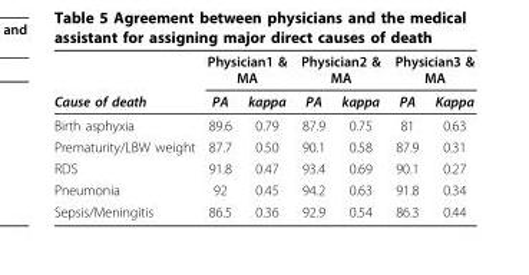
<table><thead><tr><td rowspan="2">Cause of death</td><td colspan="2">Physician1 &amp; MA</td><td colspan="2">Physician2 &amp; MA</td><td colspan="2">Physician3 &amp; MA</td></tr><tr><td>PA</td><td>kappa</td><td>PA</td><td>kappa</td><td>PA</td><td>Kappa</td></tr></thead><tbody><tr><td>Birth asphyxia</td><td>89.6</td><td>0.79</td><td>87.9</td><td>0.75</td><td>81</td><td>0.63</td></tr><tr><td>Prematurity/LBW weight</td><td>87.7</td><td>0.50</td><td>90.1</td><td>0.58</td><td>87.9</td><td>0.31</td></tr><tr><td>RDS</td><td>91.8</td><td>0.47</td><td>93.4</td><td>0.69</td><td>90.1</td><td>0.27</td></tr><tr><td>Pneumonia</td><td>92</td><td>0.45</td><td>94.2</td><td>0.63</td><td>91.8</td><td>0.34</td></tr><tr><td>Sepsis/Meningitis</td><td>86.5</td><td>0.36</td><td>92.9</td><td>0.54</td><td>86.3</td><td>0.44</td></tr></tbody></table>